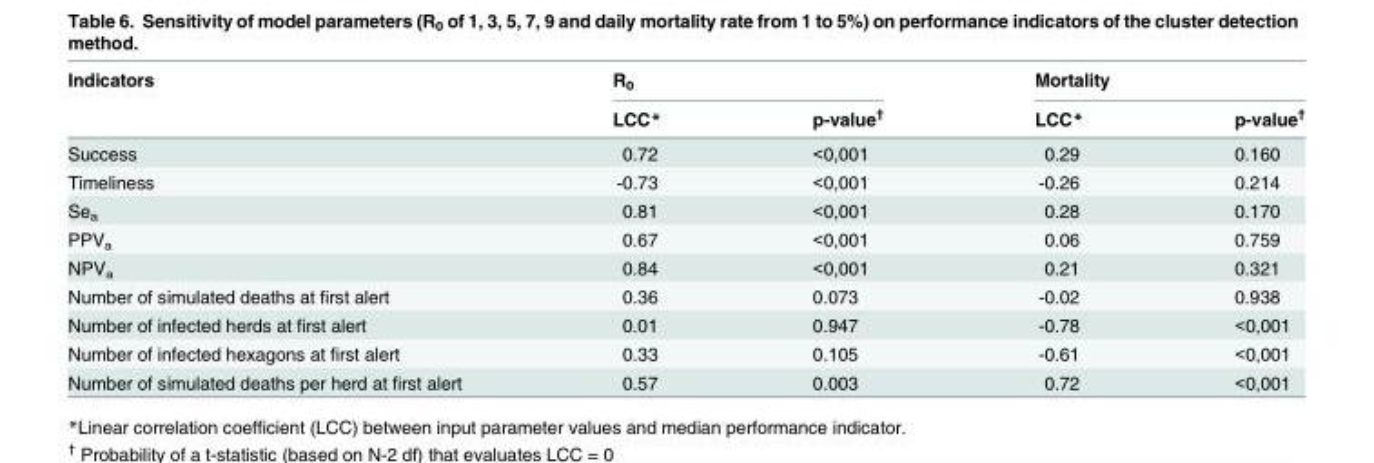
<table><thead><tr><td rowspan="2">Indicators</td><td colspan="2">R<sub>0</sub></td><td colspan="2">Mortality</td></tr><tr><td>LCC*</td><td>p-value<sup>†</sup></td><td>LCC*</td><td>p-value<sup>†</sup></td></tr></thead><tbody><tr><td>Success</td><td>0.72</td><td>&lt;0,001</td><td>0.29</td><td>0.160</td></tr><tr><td>Timeliness</td><td>-0.73</td><td>&lt;0,001</td><td>-0.26</td><td>0.214</td></tr><tr><td>Se<sub>a</sub></td><td>0.81</td><td>&lt;0,001</td><td>0.28</td><td>0.170</td></tr><tr><td>PPV<sub>a</sub></td><td>0.67</td><td>&lt;0,001</td><td>0.06</td><td>0.759</td></tr><tr><td>NPV<sub>a</sub></td><td>0.84</td><td>&lt;0,001</td><td>0.21</td><td>0.321</td></tr><tr><td>Number of simulated deaths at first alert</td><td>0.36</td><td>0.073</td><td>-0.02</td><td>0.938</td></tr><tr><td>Number of infected herds at first alert</td><td>0.01</td><td>0.947</td><td>-0.78</td><td>&lt;0,001</td></tr><tr><td>Number of infected hexagons at first alert</td><td>0.33</td><td>0.105</td><td>-0.61</td><td>&lt;0,001</td></tr><tr><td>Number of simulated deaths per herd at first alert</td><td>0.57</td><td>0.003</td><td>0.72</td><td>&lt;0,001</td></tr></tbody></table>